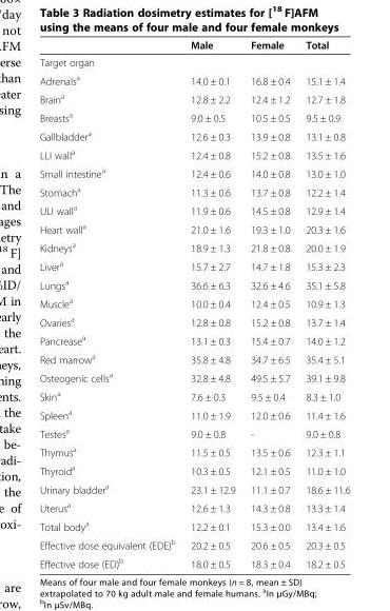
<table><thead><tr><td></td><td>Male</td><td>Female</td><td>Total</td></tr></thead><tbody><tr><td colspan="4">Target organ</td></tr><tr><td>Adrenals<sup>a</sup></td><td>14.0 ± 0.1</td><td>16.8 ± 0.4</td><td>15.1 ± 1.4</td></tr><tr><td>Brain<sup>a</sup></td><td>12.8 ± 2.2</td><td>12.4 ± 1.2</td><td>12.7 ± 1.8</td></tr><tr><td>Breasts<sup>a</sup></td><td>9.0 ± 0.5</td><td>10.5 ± 0.5</td><td>9.5 ± 0.9</td></tr><tr><td>Gallbladder<sup>a</sup></td><td>12.6 ± 0.3</td><td>13.9 ± 0.8</td><td>13.1 ± 0.8</td></tr><tr><td>LLI wall<sup>a</sup></td><td>12.4 ± 0.8</td><td>15.2 ± 0.8</td><td>13.5 ± 1.6</td></tr><tr><td>Small intestine<sup>a</sup></td><td>12.4 ± 0.6</td><td>14.0 ± 0.8</td><td>13.0 ± 1.0</td></tr><tr><td>Stomach<sup>a</sup></td><td>11.3 ± 0.6</td><td>13.7 ± 0.8</td><td>12.2 ± 1.4</td></tr><tr><td>ULI wall<sup>a</sup></td><td>11.9 ± 0.6</td><td>14.5 ± 0.8</td><td>12.9 ± 1.4</td></tr><tr><td>Heart wall<sup>a</sup></td><td>21.0 ± 1.6</td><td>19.3 ± 1.0</td><td>20.3 ± 1.6</td></tr><tr><td>Kidneys<sup>a</sup></td><td>18.9 ± 1.3</td><td>21.8 ± 0.8</td><td>20.0 ± 1.9</td></tr><tr><td>Liver<sup>a</sup></td><td>15.7 ± 2.7</td><td>14.7 ± 1.8</td><td>15.3 ± 2.3</td></tr><tr><td>Lungs<sup>a</sup></td><td>36.6 ± 6.3</td><td>32.6 ± 4.6</td><td>35.1 ± 5.8</td></tr><tr><td>Muscle<sup>a</sup></td><td>10.0 ± 0.4</td><td>12.4 ± 0.5</td><td>10.9 ± 1.3</td></tr><tr><td>Ovaries<sup>a</sup></td><td>12.8 ± 0.8</td><td>15.2 ± 0.8</td><td>13.7 ± 1.4</td></tr><tr><td>Pancrease<sup>a</sup></td><td>13.1 ± 0.3</td><td>15.4 ± 0.7</td><td>14.0 ± 1.2</td></tr><tr><td>Red marrow<sup>a</sup></td><td>35.8 ± 4.8</td><td>34.7 ± 6.5</td><td>35.4 ± 5.1</td></tr><tr><td>Osteogenic cells<sup>a</sup></td><td>32.8 ± 4.8</td><td>49.5 ± 5.7</td><td>39.1 ± 9.8</td></tr><tr><td>Skin<sup>a</sup></td><td>7.6 ± 0.3</td><td>9.5 ± 0.4</td><td>8.3 ± 1.0</td></tr><tr><td>Spleen<sup>a</sup></td><td>11.0 ± 1.9</td><td>12.0 ± 0.6</td><td>11.4 ± 1.6</td></tr><tr><td>Testes<sup>a</sup></td><td>9.0 ± 0.8</td><td>-</td><td>9.0 ± 0.8</td></tr><tr><td>Thymus<sup>a</sup></td><td>11.5 ± 0.5</td><td>13.5 ± 0.6</td><td>12.3 ± 1.1</td></tr><tr><td>Thyroid<sup>a</sup></td><td>10.3 ± 0.5</td><td>12.1 ± 0.5</td><td>11.0 ± 1.0</td></tr><tr><td>Urinary bladder<sup>a</sup></td><td>23.1 ± 12.9</td><td>11.1 ± 0.7</td><td>18.6 ± 11.6</td></tr><tr><td>Uterus<sup>a</sup></td><td>12.6 ± 1.3</td><td>14.3 ± 0.8</td><td>13.3 ± 1.4</td></tr><tr><td>Total body<sup>a</sup></td><td>12.2 ± 0.1</td><td>15.3 ± 0.0</td><td>13.4 ± 1.6</td></tr><tr><td>Effective dose equivalent (EDE)<sup>b</sup></td><td>20.2 ± 0.5</td><td>20.6 ± 0.5</td><td>20.3 ± 0.5</td></tr><tr><td>Effective dose (ED)<sup>b</sup></td><td>18.0 ± 0.5</td><td>18.3 ± 0.4</td><td>18.2 ± 0.5</td></tr></tbody></table>